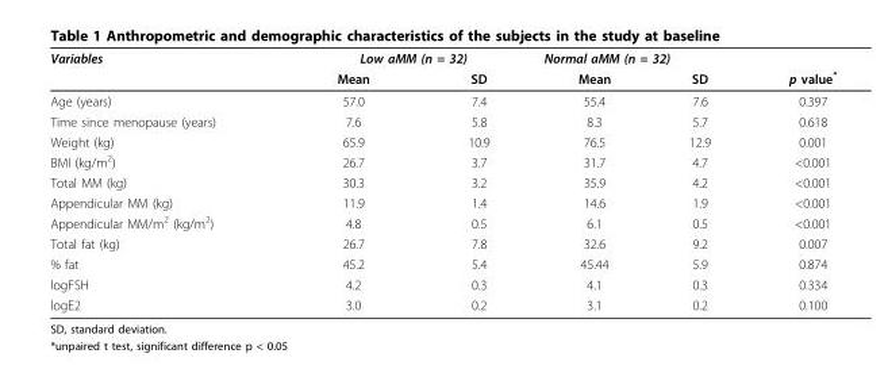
<table><thead><tr><td rowspan="2">Variables</td><td colspan="2">Low aMM (n = 32)</td><td colspan="3">Normal aMM (n = 32)</td></tr><tr><td>Mean</td><td>SD</td><td>Mean</td><td>SD</td><td>p value*</td></tr></thead><tbody><tr><td>Age (years)</td><td>57.0</td><td>7.4</td><td>55.4</td><td>7.6</td><td>0.397</td></tr><tr><td>Time since menopause (years)</td><td>7.6</td><td>5.8</td><td>8.3</td><td>5.7</td><td>0.618</td></tr><tr><td>Weight (kg)</td><td>65.9</td><td>10.9</td><td>76.5</td><td>12.9</td><td>0.001</td></tr><tr><td>BMI (kg/m<sup>2</sup>)</td><td>26.7</td><td>3.7</td><td>31.7</td><td>4.7</td><td>&lt;0.001</td></tr><tr><td>Total MM (kg)</td><td>30.3</td><td>3.2</td><td>35.9</td><td>4.2</td><td>&lt;0.001</td></tr><tr><td>Appendicular MM (kg)</td><td>11.9</td><td>1.4</td><td>14.6</td><td>1.9</td><td>&lt;0.001</td></tr><tr><td>Appendicular MM/m<sup>2</sup> (kg/m<sup>2</sup>)</td><td>4.8</td><td>0.5</td><td>6.1</td><td>0.5</td><td>&lt;0.001</td></tr><tr><td>Total fat (kg)</td><td>26.7</td><td>7.8</td><td>32.6</td><td>9.2</td><td>0.007</td></tr><tr><td>% fat</td><td>45.2</td><td>5.4</td><td>45.44</td><td>5.9</td><td>0.874</td></tr><tr><td>logFSH</td><td>4.2</td><td>0.3</td><td>4.1</td><td>0.3</td><td>0.334</td></tr><tr><td>logE2</td><td>3.0</td><td>0.2</td><td>3.1</td><td>0.2</td><td>0.100</td></tr></tbody></table>